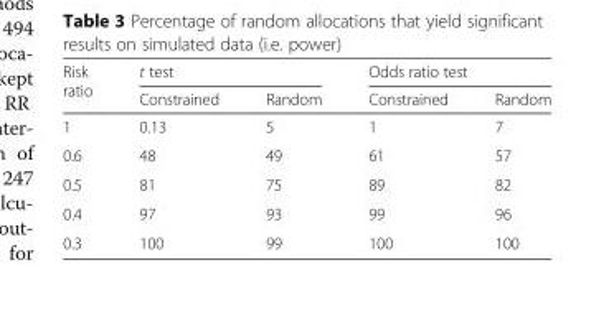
<table><thead><tr><td rowspan="2">Risk ratio</td><td colspan="2">t test</td><td colspan="2">Odds ratio test</td></tr><tr><td>Constrained</td><td>Random</td><td>Constrained</td><td>Random</td></tr></thead><tbody><tr><td>1</td><td>0.13</td><td>5</td><td>1</td><td>7</td></tr><tr><td>0.6</td><td>48</td><td>49</td><td>61</td><td>57</td></tr><tr><td>0.5</td><td>81</td><td>75</td><td>89</td><td>82</td></tr><tr><td>0.4</td><td>97</td><td>93</td><td>99</td><td>96</td></tr><tr><td>0.3</td><td>100</td><td>99</td><td>100</td><td>100</td></tr></tbody></table>